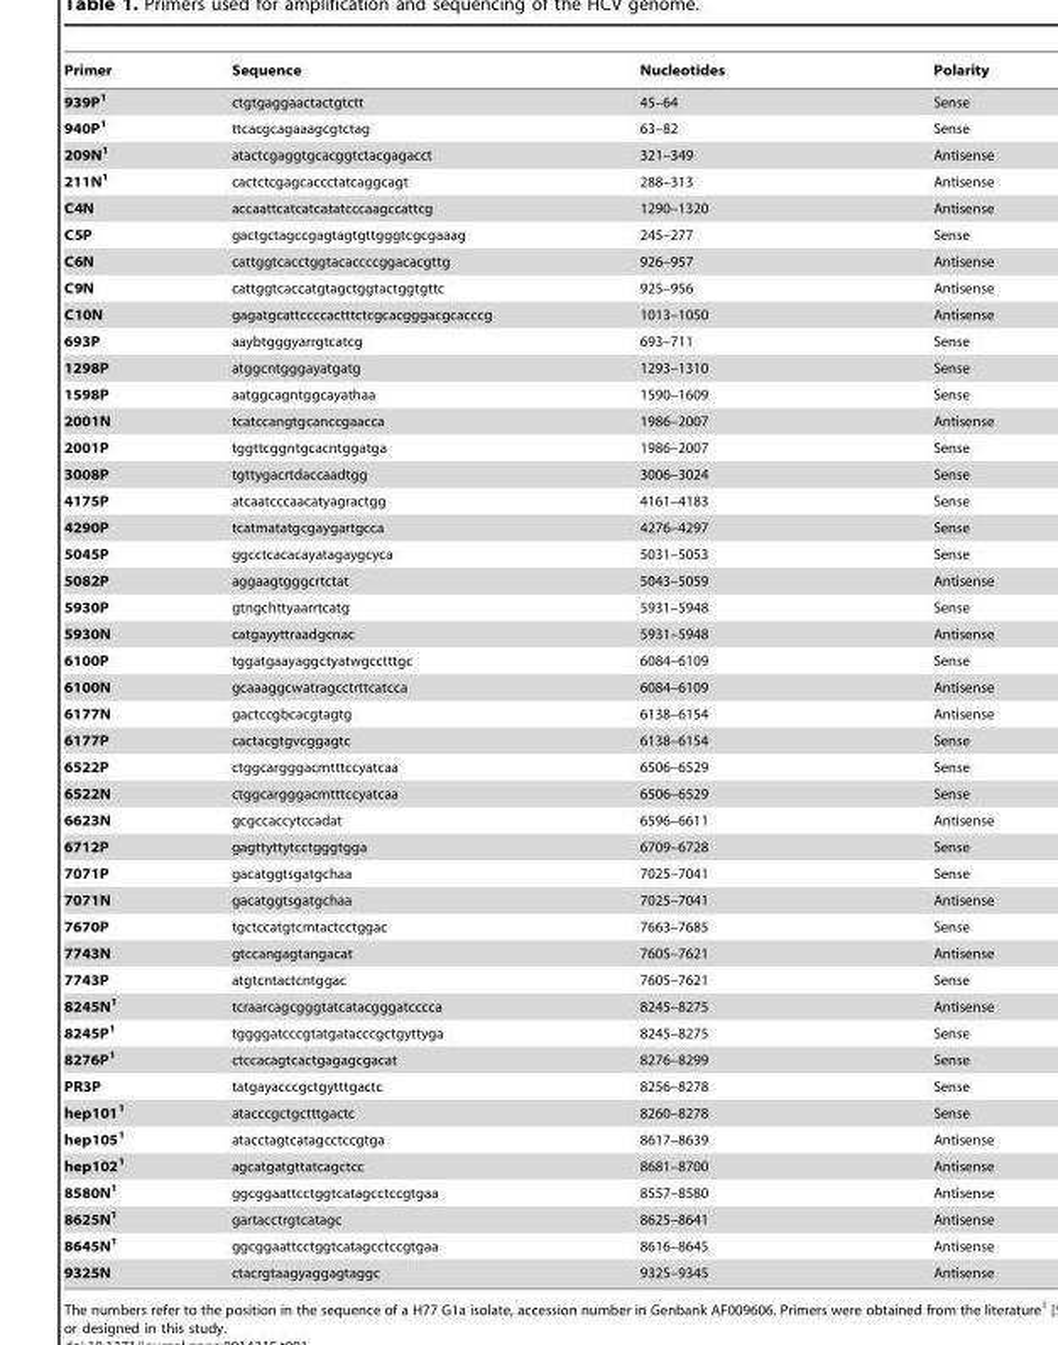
<table><thead><tr><td>Primer</td><td>Sequence</td><td>Nucleotides</td><td>Polarity</td></tr></thead><tbody><tr><td>939P<sup>1</sup></td><td>ctgtgaggaactactgtctt</td><td>45–64</td><td>Sense</td></tr><tr><td>940P<sup>1</sup></td><td>ttcacgcagaaagcgtctag</td><td>63–82</td><td>Sense</td></tr><tr><td>209N<sup>1</sup></td><td>atactcgaggtgcacggtctacgagacct</td><td>321–349</td><td>Antisense</td></tr><tr><td>211N<sup>1</sup></td><td>cactctcgagcaccctatcaggcagt</td><td>288–313</td><td>Antisense</td></tr><tr><td>C4N</td><td>accaattcatcatcatatcccaagccattcg</td><td>1290–1320</td><td>Antisense</td></tr><tr><td>C5P</td><td>gactgctagccgagtagtgttgggtcgcgaaag</td><td>245–277</td><td>Sense</td></tr><tr><td>C6N</td><td>cattggtcacctggtacaccccggacacgttg</td><td>926–957</td><td>Antisense</td></tr><tr><td>C9N</td><td>cattggtcaccatgtagctggtactggtgttc</td><td>925–956</td><td>Antisense</td></tr><tr><td>C10N</td><td>gagatgcattccccactttctcgcacgggacgcacccg</td><td>1013–1050</td><td>Antisense</td></tr><tr><td>693P</td><td>aaybtgggyarrgtcatcg</td><td>693–711</td><td>Sense</td></tr><tr><td>1298P</td><td>atggcntgggayatgatg</td><td>1293–1310</td><td>Sense</td></tr><tr><td>1598P</td><td>aatggcagntggcayathaa</td><td>1590–1609</td><td>Sense</td></tr><tr><td>2001N</td><td>tcatccangtgcanccgaacca</td><td>1986–2007</td><td>Antisense</td></tr><tr><td>2001P</td><td>tggttcggntgcacntggatga</td><td>1986–2007</td><td>Sense</td></tr><tr><td>3008P</td><td>tgttygacrtdaccaadtgg</td><td>3006–3024</td><td>Sense</td></tr><tr><td>4175P</td><td>atcaatcccaacatyagractgg</td><td>4161–4183</td><td>Sense</td></tr><tr><td>4290P</td><td>tcatmatatgcgaygartgcca</td><td>4276–4297</td><td>Sense</td></tr><tr><td>5045P</td><td>ggcctcacacayatagaygcyca</td><td>5031–5053</td><td>Sense</td></tr><tr><td>5082P</td><td>aggaagtgggcrtctat</td><td>5043–5059</td><td>Antisense</td></tr><tr><td>5930P</td><td>gtngchttyaarrtcatg</td><td>5931–5948</td><td>Sense</td></tr><tr><td>5930N</td><td>catgayyttraadgcnac</td><td>5931–5948</td><td>Antisense</td></tr><tr><td>6100P</td><td>tggatgaayaggctyatwgcctttgc</td><td>6084–6109</td><td>Sense</td></tr><tr><td>6100N</td><td>gcaaaggcwatragcctrttcatcca</td><td>6084–6109</td><td>Antisense</td></tr><tr><td>6177N</td><td>gactccgbcacgtagtg</td><td>6138–6154</td><td>Antisense</td></tr><tr><td>6177P</td><td>cactacgtgvcggagtc</td><td>6138–6154</td><td>Sense</td></tr><tr><td>6522P</td><td>ctggcargggacmtttccyatcaa</td><td>6506–6529</td><td>Sense</td></tr><tr><td>6522N</td><td>ctggcargggacmtttccyatcaa</td><td>6506–6529</td><td>Sense</td></tr><tr><td>6623N</td><td>gcgccaccytccadat</td><td>6596–6611</td><td>Antisense</td></tr><tr><td>6712P</td><td>gagttyttytcctgggtgga</td><td>6709–6728</td><td>Sense</td></tr><tr><td>7071P</td><td>gacatggtsgatgchaa</td><td>7025–7041</td><td>Sense</td></tr><tr><td>7071N</td><td>gacatggtsgatgchaa</td><td>7025–7041</td><td>Antisense</td></tr><tr><td>7670P</td><td>tgctccatgtcmtactcctggac</td><td>7663–7685</td><td>Sense</td></tr><tr><td>7743N</td><td>gtccangagtangacat</td><td>7605–7621</td><td>Antisense</td></tr><tr><td>7743P</td><td>atgtcntactcntggac</td><td>7605–7621</td><td>Sense</td></tr><tr><td>8245N<sup>1</sup></td><td>tcraarcagcgggtatcatacgggatcccca</td><td>8245–8275</td><td>Antisense</td></tr><tr><td>8245P<sup>1</sup></td><td>tggggatcccgtatgatacccgctgyttyga</td><td>8245–8275</td><td>Sense</td></tr><tr><td>8276P<sup>1</sup></td><td>ctccacagtcactgagagcgacat</td><td>8276–8299</td><td>Sense</td></tr><tr><td>PR3P</td><td>tatgayacccgctgytttgactc</td><td>8256–8278</td><td>Sense</td></tr><tr><td>hep101<sup>1</sup></td><td>atacccgctgctttgactc</td><td>8260–8278</td><td>Sense</td></tr><tr><td>hep105<sup>1</sup></td><td>atacctagtcatagcctccgtga</td><td>8617–8639</td><td>Antisense</td></tr><tr><td>hep102<sup>1</sup></td><td>agcatgatgttatcagctcc</td><td>8681–8700</td><td>Antisense</td></tr><tr><td>8580N<sup>1</sup></td><td>ggcggaattcctggtcatagcctccgtgaa</td><td>8557–8580</td><td>Antisense</td></tr><tr><td>8625N<sup>1</sup></td><td>gartacctrgtcatagc</td><td>8625–8641</td><td>Antisense</td></tr><tr><td>8645N<sup>1</sup></td><td>ggcggaattcctggtcatagcctccgtgaa</td><td>8616–8645</td><td>Antisense</td></tr><tr><td>9325N</td><td>ctacrgtaagyaggagtaggc</td><td>9325–9345</td><td>Antisense</td></tr></tbody></table>